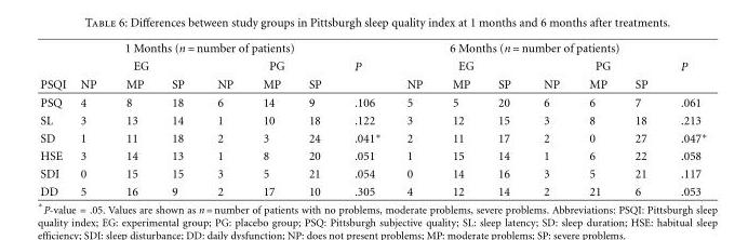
<table><thead><tr><td rowspan="3">PSQI</td><td colspan="6">1 Months (n = number of patients)</td><td rowspan="3">P</td><td colspan="6">6 Months (n = number of patients)</td><td rowspan="3">P</td></tr><tr><td colspan="3">EG</td><td colspan="3">PG</td><td colspan="3">EG</td><td colspan="3">PG</td></tr><tr><td>NP</td><td>MP</td><td>SP</td><td>NP</td><td>MP</td><td>SP</td><td>NP</td><td>MP</td><td>SP</td><td>NP</td><td>MP</td><td>SP</td></tr></thead><tbody><tr><td>PSQ</td><td>4</td><td>8</td><td>18</td><td>6</td><td>14</td><td>9</td><td>.106</td><td>5</td><td>5</td><td>20</td><td>6</td><td>6</td><td>7</td><td>.061</td></tr><tr><td>SL</td><td>3</td><td>13</td><td>14</td><td>1</td><td>10</td><td>18</td><td>.122</td><td>3</td><td>12</td><td>15</td><td>3</td><td>8</td><td>18</td><td>.213</td></tr><tr><td>SD</td><td>1</td><td>11</td><td>18</td><td>2</td><td>3</td><td>24</td><td>.041∗</td><td>2</td><td>11</td><td>17</td><td>2</td><td>0</td><td>27</td><td>.047∗</td></tr><tr><td>HSE</td><td>3</td><td>14</td><td>13</td><td>1</td><td>8</td><td>20</td><td>.051</td><td>1</td><td>15</td><td>14</td><td>1</td><td>6</td><td>22</td><td>.058</td></tr><tr><td>SDI</td><td>0</td><td>15</td><td>15</td><td>3</td><td>5</td><td>21</td><td>.054</td><td>0</td><td>14</td><td>16</td><td>3</td><td>5</td><td>21</td><td>.117</td></tr><tr><td>DD</td><td>5</td><td>16</td><td>9</td><td>2</td><td>17</td><td>10</td><td>.305</td><td>4</td><td>12</td><td>14</td><td>2</td><td>21</td><td>6</td><td>.053</td></tr></tbody></table>